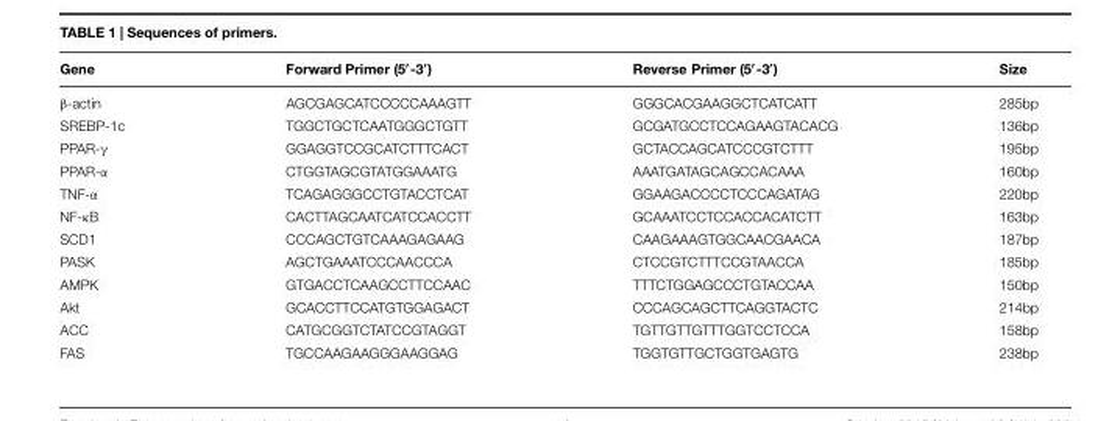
<table><thead><tr><td>Gene</td><td>Forward Primer (5′-3′)</td><td>Reverse Primer (5′-3′)</td><td>Size</td></tr></thead><tbody><tr><td>β-actin</td><td>AGCGAGCATCCCCCAAAGTT</td><td>GGGCACGAAGGCTCATCATT</td><td>285bp</td></tr><tr><td>SREBP-1c</td><td>TGGCTGCTCAATGGGCTGTT</td><td>GCGATGCCTCCAGAAGTACACG</td><td>136bp</td></tr><tr><td>PPAR-γ</td><td>GGAGGTCCGCATCTTTCACT</td><td>GCTACCAGCATCCCGTCTTT</td><td>195bp</td></tr><tr><td>PPAR-α</td><td>CTGGTAGCGTATGGAAATG</td><td>AAATGATAGCAGCCACAAA</td><td>160bp</td></tr><tr><td>TNF-α</td><td>TCAGAGGGCCTGTACCTCAT</td><td>GGAAGACCCCTCCCAGATAG</td><td>220bp</td></tr><tr><td>NF-κB</td><td>CACTTAGCAATCATCCACCTT</td><td>GCAAATCCTCCACCACATCTT</td><td>163bp</td></tr><tr><td>SCD1</td><td>CCCAGCTGTCAAAGAGAAG</td><td>CAAGAAAGTGGCAACGAACA</td><td>187bp</td></tr><tr><td>PASK</td><td>AGCTGAAATCCCAACCCA</td><td>CTCCGTCTTTCCGTAACCA</td><td>185bp</td></tr><tr><td>AMPK</td><td>GTGACCTCAAGCCTTCCAAC</td><td>TTTCTGGAGCCCTGTACCAA</td><td>150bp</td></tr><tr><td>Akt</td><td>GCACCTTCCATGTGGAGACT</td><td>CCCAGCAGCTTCAGGTACTC</td><td>214bp</td></tr><tr><td>ACC</td><td>CATGCGGTCTATCCGTAGGT</td><td>TGTTGTTGTTTGGTCCTCCA</td><td>158bp</td></tr><tr><td>FAS</td><td>TGCCAAGAAGGGAAGGAG</td><td>TGGTGTTGCTGGTGAGTG</td><td>238bp</td></tr></tbody></table>